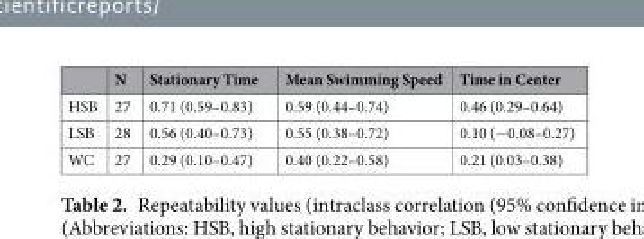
<table><thead><tr><td></td><td>N</td><td>Stationary Time</td><td>Mean Swimming Speed</td><td>Time in Center</td></tr></thead><tbody><tr><td>HSB</td><td>27</td><td>0.71 (0.59–0.83)</td><td>0.59 (0.44–0.74)</td><td>0.46 (0.29–0.64)</td></tr><tr><td>LSB</td><td>28</td><td>0.56 (0.40–0.73)</td><td>0.55 (0.38–0.72)</td><td>0.10 (−0.08–0.27)</td></tr><tr><td>WC</td><td>27</td><td>0.29 (0.10–0.47)</td><td>0.40 (0.22–0.58)</td><td>0.21 (0.03–0.38)</td></tr></tbody></table>